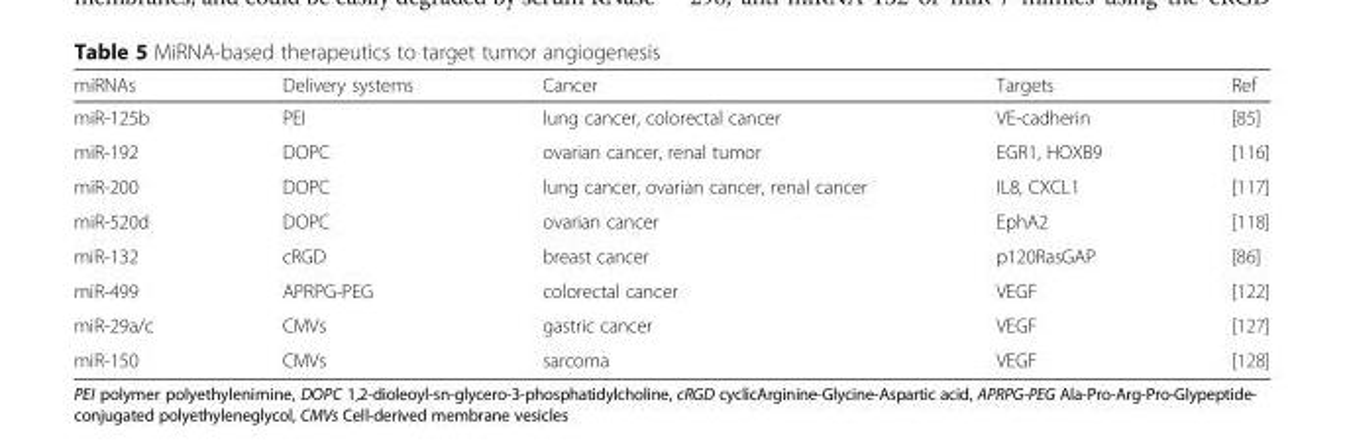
<table><thead><tr><td>miRNAs</td><td>Delivery systems</td><td>Cancer</td><td>Targets</td><td>Ref</td></tr></thead><tbody><tr><td>miR-125b</td><td>PEI</td><td>lung cancer, colorectal cancer</td><td>VE-cadherin</td><td>[85]</td></tr><tr><td>miR-192</td><td>DOPC</td><td>ovarian cancer, renal tumor</td><td>EGR1, HOXB9</td><td>[116]</td></tr><tr><td>miR-200</td><td>DOPC</td><td>lung cancer, ovarian cancer, renal cancer</td><td>IL8, CXCL1</td><td>[117]</td></tr><tr><td>miR-520d</td><td>DOPC</td><td>ovarian cancer</td><td>EphA2</td><td>[118]</td></tr><tr><td>miR-132</td><td>cRGD</td><td>breast cancer</td><td>p120RasGAP</td><td>[86]</td></tr><tr><td>miR-499</td><td>APRPG-PEG</td><td>colorectal cancer</td><td>VEGF</td><td>[122]</td></tr><tr><td>miR-29a/c</td><td>CMVs</td><td>gastric cancer</td><td>VEGF</td><td>[127]</td></tr><tr><td>miR-150</td><td>CMVs</td><td>sarcoma</td><td>VEGF</td><td>[128]</td></tr></tbody></table>